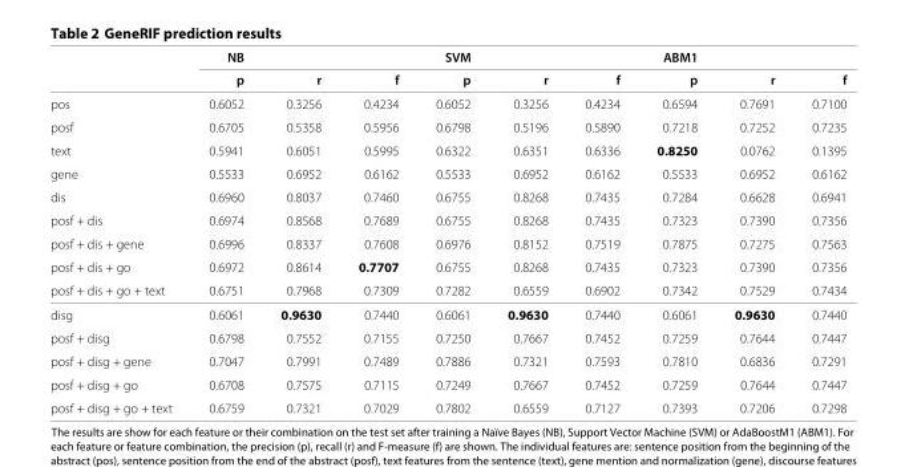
<table><thead><tr><td rowspan="2"></td><td rowspan="2">NB p</td><td rowspan="2">r</td><td rowspan="2">f</td><td rowspan="2">SVM p</td><td rowspan="2">r</td><td rowspan="2">f</td><td rowspan="2">ABM1 p</td><td rowspan="2">r</td><td rowspan="2">f</td></tr><tr></tr></thead><tbody><tr><td>pos</td><td>0.6052</td><td>0.3256</td><td>0.4234</td><td>0.6052</td><td>0.3256</td><td>0.4234</td><td>0.6594</td><td>0.7691</td><td>0.7100</td></tr><tr><td>posf</td><td>0.6705</td><td>0.5358</td><td>0.5956</td><td>0.6798</td><td>0.5196</td><td>0.5890</td><td>0.7218</td><td>0.7252</td><td>0.7235</td></tr><tr><td>text</td><td>0.5941</td><td>0.6051</td><td>0.5995</td><td>0.6322</td><td>0.6351</td><td>0.6336</td><td>0.8250</td><td>0.0762</td><td>0.1395</td></tr><tr><td>gene</td><td>0.5533</td><td>0.6952</td><td>0.6162</td><td>0.5533</td><td>0.6952</td><td>0.6162</td><td>0.5533</td><td>0.6952</td><td>0.6162</td></tr><tr><td>dis</td><td>0.6960</td><td>0.8037</td><td>0.7460</td><td>0.6755</td><td>0.8268</td><td>0.7435</td><td>0.7284</td><td>0.6628</td><td>0.6941</td></tr><tr><td>posf + dis</td><td>0.6974</td><td>0.8568</td><td>0.7689</td><td>0.6755</td><td>0.8268</td><td>0.7435</td><td>0.7323</td><td>0.7390</td><td>0.7356</td></tr><tr><td>posf + dis + gene</td><td>0.6996</td><td>0.8337</td><td>0.7608</td><td>0.6976</td><td>0.8152</td><td>0.7519</td><td>0.7875</td><td>0.7275</td><td>0.7563</td></tr><tr><td>posf + dis + go</td><td>0.6972</td><td>0.8614</td><td>0.7707</td><td>0.6755</td><td>0.8268</td><td>0.7435</td><td>0.7323</td><td>0.7390</td><td>0.7356</td></tr><tr><td>posf + dis + go + text</td><td>0.6751</td><td>0.7968</td><td>0.7309</td><td>0.7282</td><td>0.6559</td><td>0.6902</td><td>0.7342</td><td>0.7529</td><td>0.7434</td></tr><tr><td>disg</td><td>0.6061</td><td>0.9630</td><td>0.7440</td><td>0.6061</td><td>0.9630</td><td>0.7440</td><td>0.6061</td><td>0.9630</td><td>0.7440</td></tr><tr><td>posf + disg</td><td>0.6798</td><td>0.7552</td><td>0.7155</td><td>0.7250</td><td>0.7667</td><td>0.7452</td><td>0.7259</td><td>0.7644</td><td>0.7447</td></tr><tr><td>posf + disg + gene</td><td>0.7047</td><td>0.7991</td><td>0.7489</td><td>0.7886</td><td>0.7321</td><td>0.7593</td><td>0.7810</td><td>0.6836</td><td>0.7291</td></tr><tr><td>posf + disg + go</td><td>0.6708</td><td>0.7575</td><td>0.7115</td><td>0.7249</td><td>0.7667</td><td>0.7452</td><td>0.7259</td><td>0.7644</td><td>0.7447</td></tr><tr><td>posf + disg + go + text</td><td>0.6759</td><td>0.7321</td><td>0.7029</td><td>0.7802</td><td>0.6559</td><td>0.7127</td><td>0.7393</td><td>0.7206</td><td>0.7298</td></tr></tbody></table>